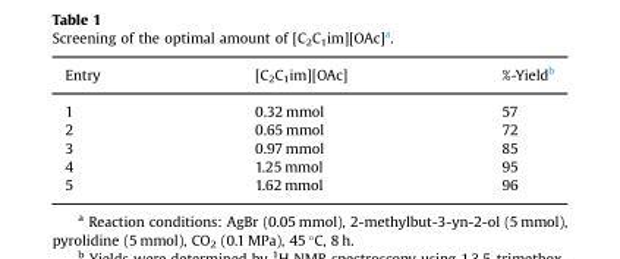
<table><thead><tr><td>Entry</td><td>[C<sub>2</sub>C<sub>1</sub>im][OAc]</td><td>%-Yield<sup>b</sup></td></tr></thead><tbody><tr><td>1</td><td>0.32 mmol</td><td>57</td></tr><tr><td>2</td><td>0.65 mmol</td><td>72</td></tr><tr><td>3</td><td>0.97 mmol</td><td>85</td></tr><tr><td>4</td><td>1.25 mmol</td><td>95</td></tr><tr><td>5</td><td>1.62 mmol</td><td>96</td></tr></tbody></table>